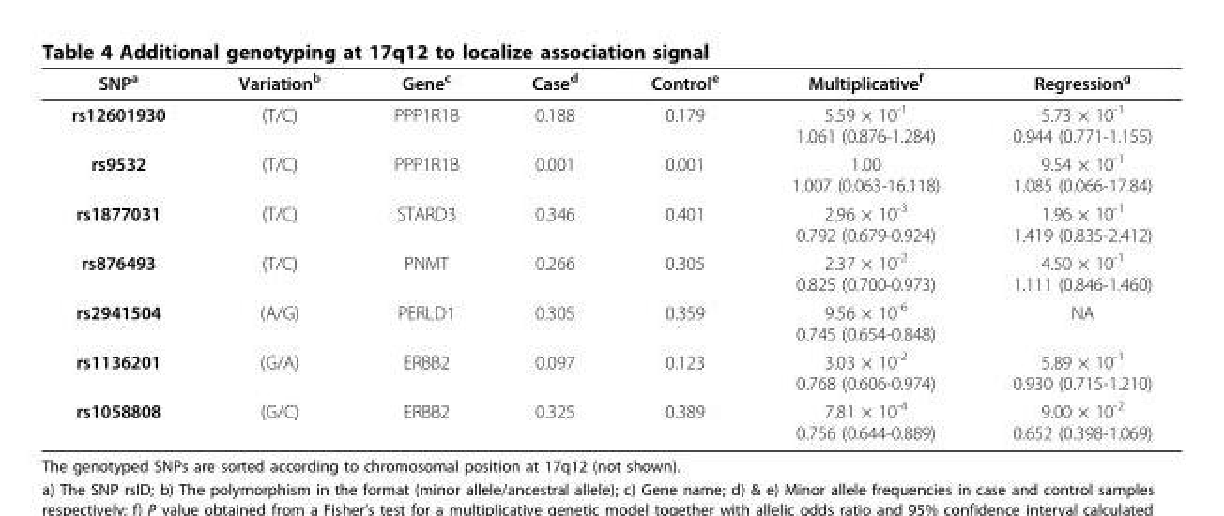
<table><thead><tr><td>SNP<sup>a</sup></td><td>Variation<sup>b</sup></td><td>Gene<sup>c</sup></td><td>Case<sup>d</sup></td><td>Control<sup>e</sup></td><td>Multiplicative<sup>f</sup></td><td>Regression<sup>g</sup></td></tr></thead><tbody><tr><td>rs12601930</td><td>(T/C)</td><td>PPP1R1B</td><td>0.188</td><td>0.179</td><td>5.59 × 10<sup>-1</sup> 1.061 (0.876-1.284)</td><td>5.73 × 10<sup>-1</sup> 0.944 (0.771-1.155)</td></tr><tr><td>rs9532</td><td>(T/C)</td><td>PPP1R1B</td><td>0.001</td><td>0.001</td><td>1.00 1.007 (0.063-16.118)</td><td>9.54 × 10<sup>-1</sup> 1.085 (0.066-17.84)</td></tr><tr><td>rs1877031</td><td>(T/C)</td><td>STARD3</td><td>0.346</td><td>0.401</td><td>2.96 × 10<sup>-3</sup> 0.792 (0.679-0.924)</td><td>1.96 × 10<sup>-1</sup> 1.419 (0.835-2.412)</td></tr><tr><td>rs876493</td><td>(T/C)</td><td>PNMT</td><td>0.266</td><td>0.305</td><td>2.37 × 10<sup>-2</sup> 0.825 (0.700-0.973)</td><td>4.50 × 10<sup>-1</sup> 1.111 (0.846-1.460)</td></tr><tr><td>rs2941504</td><td>(A/G)</td><td>PERLD1</td><td>0.305</td><td>0.359</td><td>9.56 × 10<sup>-6</sup> 0.745 (0.654-0.848)</td><td>NA</td></tr><tr><td>rs1136201</td><td>(G/A)</td><td>ERBB2</td><td>0.097</td><td>0.123</td><td>3.03 × 10<sup>-2</sup> 0.768 (0.606-0.974)</td><td>5.89 × 10<sup>-1</sup> 0.930 (0.715-1.210)</td></tr><tr><td>rs1058808</td><td>(G/C)</td><td>ERBB2</td><td>0.325</td><td>0.389</td><td>7.81 × 10<sup>-4</sup> 0.756 (0.644-0.889)</td><td>9.00 × 10<sup>-2</sup> 0.652 (0.398-1.069)</td></tr></tbody></table>